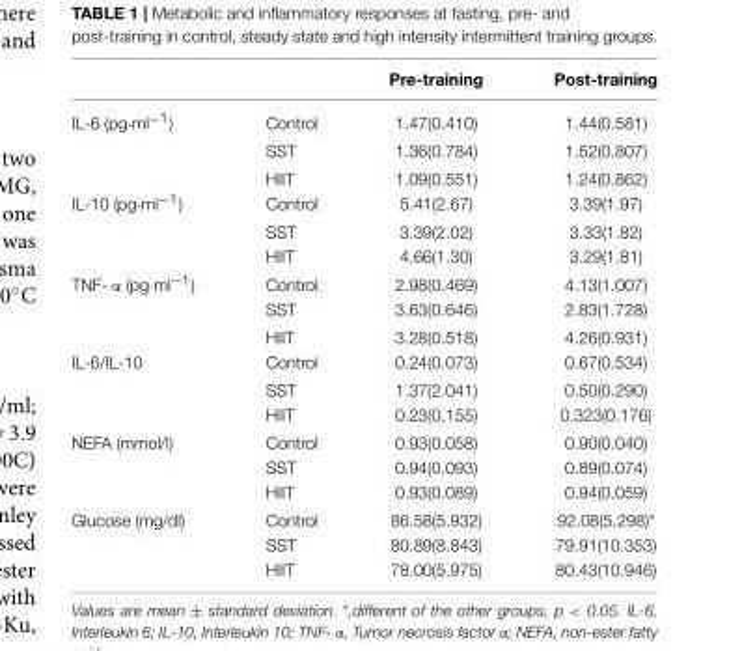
<table><thead><tr><td></td><td></td><td>Pre-training</td><td>Post-training</td></tr></thead><tbody><tr><td rowspan="3">IL-6 (pg·ml<sup>−1</sup>)</td><td>Control</td><td>1.47(0.410)</td><td>1.44(0.581)</td></tr><tr><td>SST</td><td>1.36(0.784)</td><td>1.52(0.807)</td></tr><tr><td>HIIT</td><td>1.09(0.551)</td><td>1.24(0.862)</td></tr><tr><td rowspan="3">IL-10 (pg·ml<sup>−1</sup>)</td><td>Control</td><td>5.41(2.67)</td><td>3.39(1.97)</td></tr><tr><td>SST</td><td>3.39(2.02)</td><td>3.33(1.82)</td></tr><tr><td>HIIT</td><td>4.66(1.30)</td><td>3.29(1.81)</td></tr><tr><td rowspan="3">TNF- α (pg·ml<sup>−1</sup>)</td><td>Control</td><td>2.98(0.469)</td><td>4.13(1.007)</td></tr><tr><td>SST</td><td>3.63(0.646)</td><td>2.83(1.728)</td></tr><tr><td>HIIT</td><td>3.28(0.518)</td><td>4.26(0.931)</td></tr><tr><td rowspan="3">IL-6/IL-10</td><td>Control</td><td>0.24(0.073)</td><td>0.67(0.534)</td></tr><tr><td>SST</td><td>1.37(2.041)</td><td>0.50(0.290)</td></tr><tr><td>HIIT</td><td>0.23(0.155)</td><td>0.323(0.176)</td></tr><tr><td rowspan="3">NEFA (mmol/l)</td><td>Control</td><td>0.93(0.058)</td><td>0.90(0.040)</td></tr><tr><td>SST</td><td>0.94(0.093)</td><td>0.89(0.074)</td></tr><tr><td>HIIT</td><td>0.93(0.089)</td><td>0.94(0.059)</td></tr><tr><td rowspan="3">Glucose (mg/dl)</td><td>Control</td><td>86.58(5.932)</td><td>92.08(5.298)*</td></tr><tr><td>SST</td><td>80.89(8.843)</td><td>79.91(10.353)</td></tr><tr><td>HIIT</td><td>78.00(5.975)</td><td>80.43(10.946)</td></tr></tbody></table>